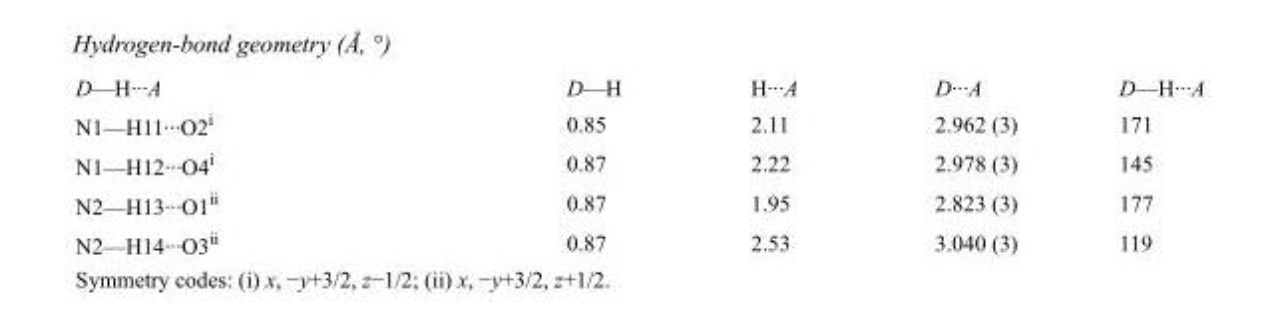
<table><tbody><tr><td>D—H···A</td><td>D—H</td><td>H···A</td><td>D···A</td><td>D—H···A</td></tr><tr><td>N1—H11···O2<sup>i</sup></td><td>0.85</td><td>2.11</td><td>2.962 (3)</td><td>171</td></tr><tr><td>N1—H12···O4<sup>i</sup></td><td>0.87</td><td>2.22</td><td>2.978 (3)</td><td>145</td></tr><tr><td>N2—H13···O1<sup>ii</sup></td><td>0.87</td><td>1.95</td><td>2.823 (3)</td><td>177</td></tr><tr><td>N2—H14···O3<sup>ii</sup></td><td>0.87</td><td>2.53</td><td>3.040 (3)</td><td>119</td></tr></tbody></table>